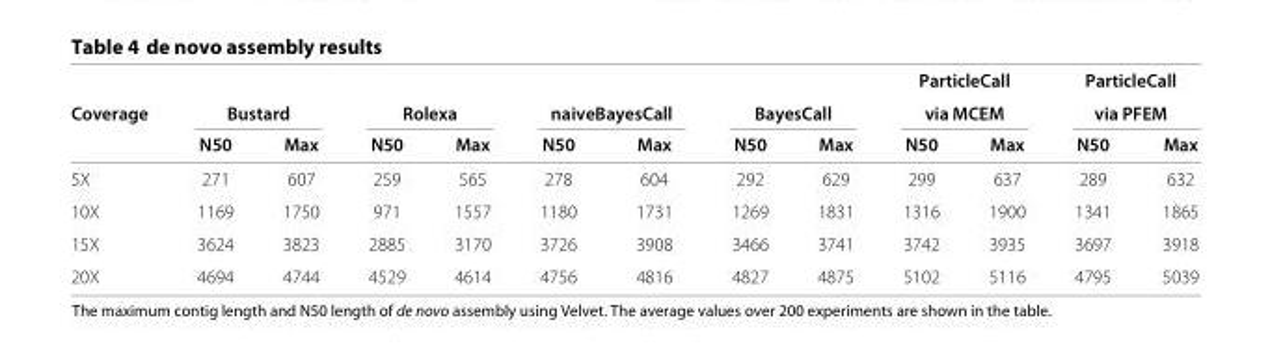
<table><thead><tr><td rowspan="3">Coverage</td><td></td><td></td><td></td><td></td><td></td><td></td><td></td><td></td><td rowspan="2" colspan="2">ParticleCall via MCEM</td><td rowspan="2" colspan="2">ParticleCall via PFEM</td></tr><tr><td colspan="2">Bustard</td><td colspan="2">Rolexa</td><td colspan="2">naiveBayesCall</td><td colspan="2">BayesCall</td></tr><tr><td>N50</td><td>Max</td><td>N50</td><td>Max</td><td>N50</td><td>Max</td><td>N50</td><td>Max</td><td>N50</td><td>Max</td><td>N50</td><td>Max</td></tr></thead><tbody><tr><td>5X</td><td>271</td><td>607</td><td>259</td><td>565</td><td>278</td><td>604</td><td>292</td><td>629</td><td>299</td><td>637</td><td>289</td><td>632</td></tr><tr><td>10X</td><td>1169</td><td>1750</td><td>971</td><td>1557</td><td>1180</td><td>1731</td><td>1269</td><td>1831</td><td>1316</td><td>1900</td><td>1341</td><td>1865</td></tr><tr><td>15X</td><td>3624</td><td>3823</td><td>2885</td><td>3170</td><td>3726</td><td>3908</td><td>3466</td><td>3741</td><td>3742</td><td>3935</td><td>3697</td><td>3918</td></tr><tr><td>20X</td><td>4694</td><td>4744</td><td>4529</td><td>4614</td><td>4756</td><td>4816</td><td>4827</td><td>4875</td><td>5102</td><td>5116</td><td>4795</td><td>5039</td></tr></tbody></table>